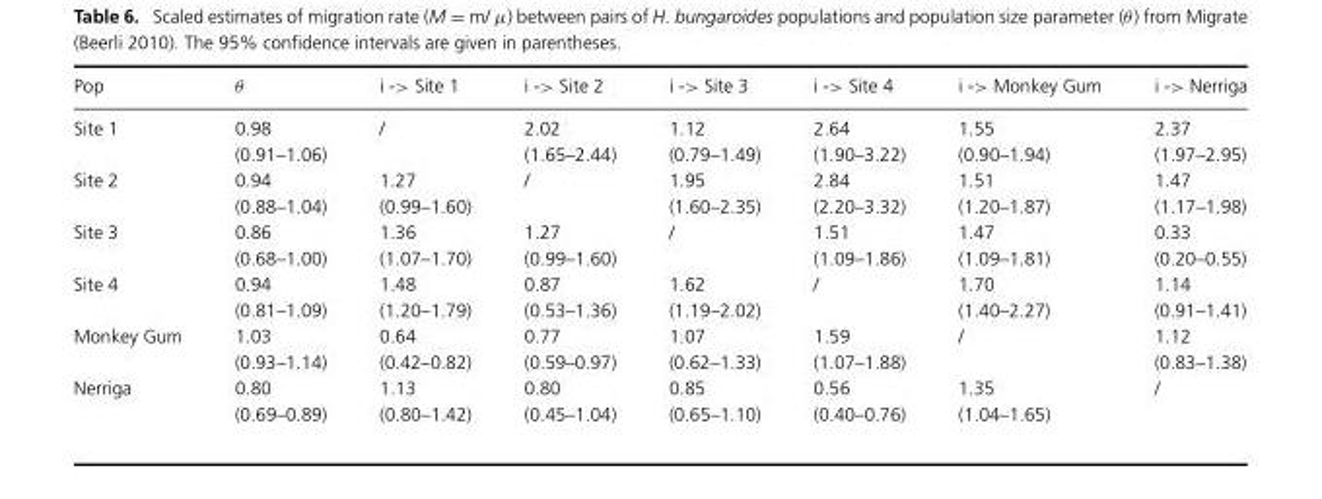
<table><thead><tr><td>Pop</td><td>θ</td><td>i -&gt; Site 1</td><td>i -&gt; Site 2</td><td>i -&gt; Site 3</td><td>i -&gt; Site 4</td><td>i -&gt; Monkey Gum</td><td>i -&gt; Nerriga</td></tr></thead><tbody><tr><td rowspan="2">Site 1</td><td>0.98</td><td>/</td><td>2.02</td><td>1.12</td><td>2.64</td><td>1.55</td><td>2.37</td></tr><tr><td>(0.91–1.06)</td><td></td><td>(1.65–2.44)</td><td>(0.79–1.49)</td><td>(1.90–3.22)</td><td>(0.90–1.94)</td><td>(1.97–2.95)</td></tr><tr><td rowspan="2">Site 2</td><td>0.94</td><td>1.27</td><td>/</td><td>1.95</td><td>2.84</td><td>1.51</td><td>1.47</td></tr><tr><td>(0.88–1.04)</td><td>(0.99–1.60)</td><td></td><td>(1.60–2.35)</td><td>(2.20–3.32)</td><td>(1.20–1.87)</td><td>(1.17–1.98)</td></tr><tr><td rowspan="2">Site 3</td><td>0.86</td><td>1.36</td><td>1.27</td><td>/</td><td>1.51</td><td>1.47</td><td>0.33</td></tr><tr><td>(0.68–1.00)</td><td>(1.07–1.70)</td><td>(0.99–1.60)</td><td></td><td>(1.09–1.86)</td><td>(1.09–1.81)</td><td>(0.20–0.55)</td></tr><tr><td rowspan="2">Site 4</td><td>0.94</td><td>1.48</td><td>0.87</td><td>1.62</td><td>/</td><td>1.70</td><td>1.14</td></tr><tr><td>(0.81–1.09)</td><td>(1.20–1.79)</td><td>(0.53–1.36)</td><td>(1.19–2.02)</td><td></td><td>(1.40–2.27)</td><td>(0.91–1.41)</td></tr><tr><td rowspan="2">Monkey Gum</td><td>1.03</td><td>0.64</td><td>0.77</td><td>1.07</td><td>1.59</td><td>/</td><td>1.12</td></tr><tr><td>(0.93–1.14)</td><td>(0.42–0.82)</td><td>(0.59–0.97)</td><td>(0.62–1.33)</td><td>(1.07–1.88)</td><td></td><td>(0.83–1.38)</td></tr><tr><td rowspan="2">Nerriga</td><td>0.80</td><td>1.13</td><td>0.80</td><td>0.85</td><td>0.56</td><td>1.35</td><td>/</td></tr><tr><td>(0.69–0.89)</td><td>(0.80–1.42)</td><td>(0.45–1.04)</td><td>(0.65–1.10)</td><td>(0.40–0.76)</td><td>(1.04–1.65)</td><td></td></tr></tbody></table>